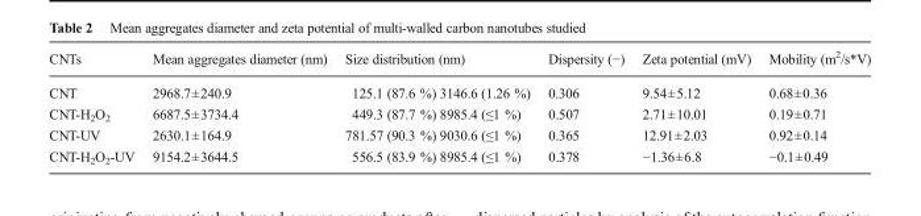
<table><thead><tr><td>CNTs</td><td>Mean aggregates diameter (nm)</td><td>Size distribution (nm)</td><td>Dispersity (−)</td><td>Zeta potential (mV)</td><td>Mobility (m<sup>2</sup>/s*V)</td></tr></thead><tbody><tr><td>CNT</td><td>2968.7±240.9</td><td>125.1 (87.6 %) 3146.6 (1.26 %)</td><td>0.306</td><td>9.54±5.12</td><td>0.68±0.36</td></tr><tr><td>CNT-H<sub>2</sub>O<sub>2</sub></td><td>6687.5±3734.4</td><td>449.3 (87.7 %) 8985.4 (≤1 %)</td><td>0.507</td><td>2.71±10.01</td><td>0.19±0.71</td></tr><tr><td>CNT-UV</td><td>2630.1±164.9</td><td>781.57 (90.3 %) 9030.6 (≤1 %)</td><td>0.365</td><td>12.91±2.03</td><td>0.92±0.14</td></tr><tr><td>CNT-H<sub>2</sub>O<sub>2</sub>-UV</td><td>9154.2±3644.5</td><td>556.5 (83.9 %) 8985.4 (≤1 %)</td><td>0.378</td><td>−1.36±6.8</td><td>−0.1±0.49</td></tr></tbody></table>